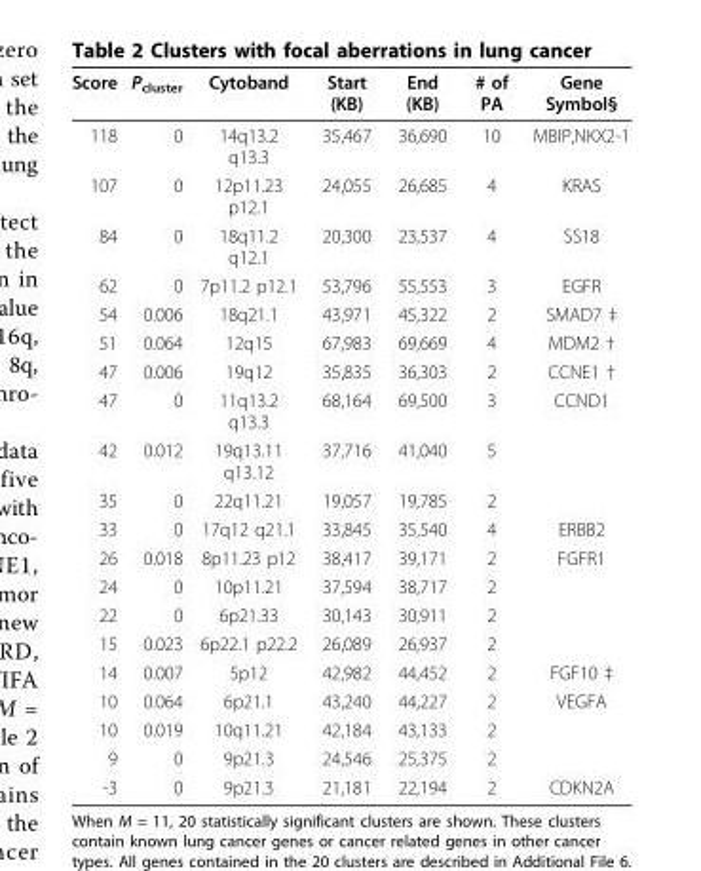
<table><thead><tr><td>Score</td><td>P<sub>cluster</sub></td><td>Cytoband</td><td>Start (KB)</td><td>End (KB)</td><td># of PA</td><td>Gene Symbol§</td></tr></thead><tbody><tr><td>118</td><td>0</td><td>14q13.2 q13.3</td><td>35,467</td><td>36,690</td><td>10</td><td>MBIP,NKX2-1</td></tr><tr><td>107</td><td>0</td><td>12p11.23 p12.1</td><td>24,055</td><td>26,685</td><td>4</td><td>KRAS</td></tr><tr><td>84</td><td>0</td><td>18q11.2 q12.1</td><td>20,300</td><td>23,537</td><td>4</td><td>SS18</td></tr><tr><td>62</td><td>0</td><td>7p11.2 p12.1</td><td>53,796</td><td>55,553</td><td>3</td><td>EGFR</td></tr><tr><td>54</td><td>0.006</td><td>18q21.1</td><td>43,971</td><td>45,322</td><td>2</td><td>SMAD7 ‡</td></tr><tr><td>51</td><td>0.064</td><td>12q15</td><td>67,983</td><td>69,669</td><td>4</td><td>MDM2 †</td></tr><tr><td>47</td><td>0.006</td><td>19q12</td><td>35,835</td><td>36,303</td><td>2</td><td>CCNE1 †</td></tr><tr><td>47</td><td>0</td><td>11q13.2 q13.3</td><td>68,164</td><td>69,500</td><td>3</td><td>CCND1</td></tr><tr><td>42</td><td>0.012</td><td>19q13.11 q13.12</td><td>37,716</td><td>41,040</td><td>5</td><td></td></tr><tr><td>35</td><td>0</td><td>22q11.21</td><td>19,057</td><td>19,785</td><td>2</td><td></td></tr><tr><td>33</td><td>0</td><td>17q12 q21.1</td><td>33,845</td><td>35,540</td><td>4</td><td>ERBB2</td></tr><tr><td>26</td><td>0.018</td><td>8p11.23 p12</td><td>38,417</td><td>39,171</td><td>2</td><td>FGFR1</td></tr><tr><td>24</td><td>0</td><td>10p11.21</td><td>37,594</td><td>38,717</td><td>2</td><td></td></tr><tr><td>22</td><td>0</td><td>6p21.33</td><td>30,143</td><td>30,911</td><td>2</td><td></td></tr><tr><td>15</td><td>0.023</td><td>6p22.1 p22.2</td><td>26,089</td><td>26,937</td><td>2</td><td></td></tr><tr><td>14</td><td>0.007</td><td>5p12</td><td>42,982</td><td>44,452</td><td>2</td><td>FGF10 ‡</td></tr><tr><td>10</td><td>0.064</td><td>6p21.1</td><td>43,240</td><td>44,227</td><td>2</td><td>VEGFA</td></tr><tr><td>10</td><td>0.019</td><td>10q11.21</td><td>42,184</td><td>43,133</td><td>2</td><td></td></tr><tr><td>9</td><td>0</td><td>9p21.3</td><td>24,546</td><td>25,375</td><td>2</td><td></td></tr><tr><td>-3</td><td>0</td><td>9p21.3</td><td>21,181</td><td>22,194</td><td>2</td><td>CDKN2A</td></tr></tbody></table>